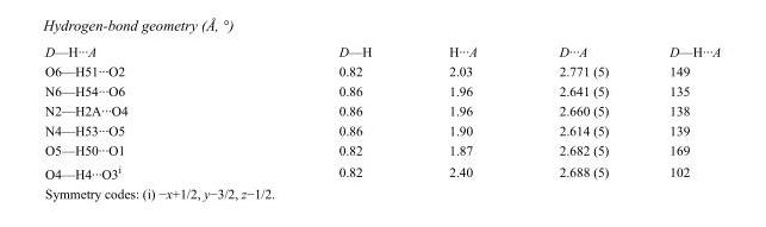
<table><tbody><tr><td>D—H···A</td><td>D—H</td><td>H···A</td><td>D···A</td><td>D—H···A</td></tr><tr><td>O6—H51···O2</td><td>0.82</td><td>2.03</td><td>2.771 (5)</td><td>149</td></tr><tr><td>N6—H54···O6</td><td>0.86</td><td>1.96</td><td>2.641 (5)</td><td>135</td></tr><tr><td>N2—H2A···O4</td><td>0.86</td><td>1.96</td><td>2.660 (5)</td><td>138</td></tr><tr><td>N4—H53···O5</td><td>0.86</td><td>1.90</td><td>2.614 (5)</td><td>139</td></tr><tr><td>O5—H50···O1</td><td>0.82</td><td>1.87</td><td>2.682 (5)</td><td>169</td></tr><tr><td>O4—H4···O3<sup>i</sup></td><td>0.82</td><td>2.40</td><td>2.688 (5)</td><td>102</td></tr></tbody></table>